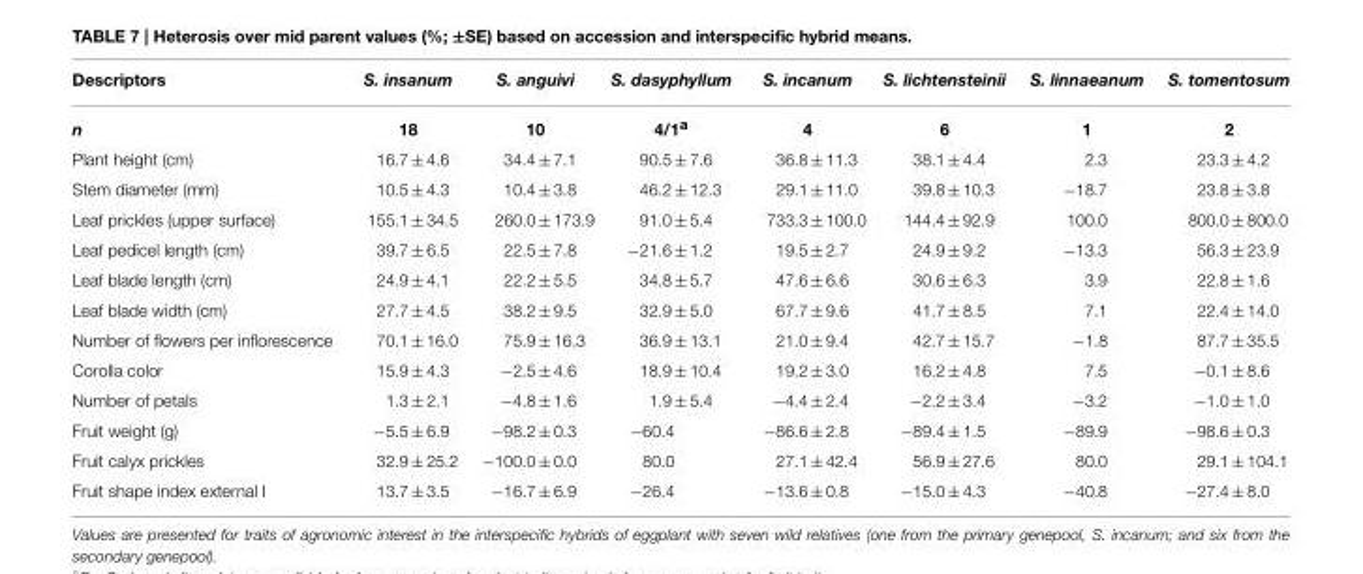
<table><thead><tr><td>Descriptors</td><td>S. insanum</td><td>S. anguivi</td><td>S. dasyphyllum</td><td>S. incanum</td><td>S. lichtensteinii</td><td>S. linnaeanum</td><td>S. tomentosum</td></tr></thead><tbody><tr><td>n</td><td>18</td><td>10</td><td>4/1<sup>a</sup></td><td>4</td><td>6</td><td>1</td><td>2</td></tr><tr><td>Plant height (cm)</td><td>16.7 ± 4.6</td><td>34.4 ± 7.1</td><td>90.5 ± 7.6</td><td>36.8 ± 11.3</td><td>38.1 ± 4.4</td><td>2.3</td><td>23.3 ± 4.2</td></tr><tr><td>Stem diameter (mm)</td><td>10.5 ± 4.3</td><td>10.4 ± 3.8</td><td>46.2 ± 12.3</td><td>29.1 ± 11.0</td><td>39.8 ± 10.3</td><td>−18.7</td><td>23.8 ± 3.8</td></tr><tr><td>Leaf prickles (upper surface)</td><td>155.1 ± 34.5</td><td>260.0 ± 173.9</td><td>91.0 ± 5.4</td><td>733.3 ± 100.0</td><td>144.4 ± 92.9</td><td>100.0</td><td>800.0 ± 800.0</td></tr><tr><td>Leaf pedicel length (cm)</td><td>39.7 ± 6.5</td><td>22.5 ± 7.8</td><td>−21.6 ± 1.2</td><td>19.5 ± 2.7</td><td>24.9 ± 9.2</td><td>−13.3</td><td>56.3 ± 23.9</td></tr><tr><td>Leaf blade length (cm)</td><td>24.9 ± 4.1</td><td>22.2 ± 5.5</td><td>34.8 ± 5.7</td><td>47.6 ± 6.6</td><td>30.6 ± 6.3</td><td>3.9</td><td>22.8 ± 1.6</td></tr><tr><td>Leaf blade width (cm)</td><td>27.7 ± 4.5</td><td>38.2 ± 9.5</td><td>32.9 ± 5.0</td><td>67.7 ± 9.6</td><td>41.7 ± 8.5</td><td>7.1</td><td>22.4 ± 14.0</td></tr><tr><td>Number of flowers per inflorescence</td><td>70.1 ± 16.0</td><td>75.9 ± 16.3</td><td>36.9 ± 13.1</td><td>21.0 ± 9.4</td><td>42.7 ± 15.7</td><td>−1.8</td><td>87.7 ± 35.5</td></tr><tr><td>Corolla color</td><td>15.9 ± 4.3</td><td>−2.5 ± 4.6</td><td>18.9 ± 10.4</td><td>19.2 ± 3.0</td><td>16.2 ± 4.8</td><td>7.5</td><td>−0.1 ± 8.6</td></tr><tr><td>Number of petals</td><td>1.3 ± 2.1</td><td>−4.8 ± 1.6</td><td>1.9 ± 5.4</td><td>−4.4 ± 2.4</td><td>−2.2 ± 3.4</td><td>−3.2</td><td>−1.0 ± 1.0</td></tr><tr><td>Fruit weight (g)</td><td>−5.5 ± 6.9</td><td>−98.2 ± 0.3</td><td>−60.4</td><td>−86.6 ± 2.8</td><td>−89.4 ± 1.5</td><td>−89.9</td><td>−98.6 ± 0.3</td></tr><tr><td>Fruit calyx prickles</td><td>32.9 ± 25.2</td><td>−100.0 ± 0.0</td><td>80.0</td><td>27.1 ± 42.4</td><td>56.9 ± 27.6</td><td>80.0</td><td>29.1 ± 104.1</td></tr><tr><td>Fruit shape index external I</td><td>13.7 ± 3.5</td><td>−16.7 ± 6.9</td><td>−26.4</td><td>−13.6 ± 0.8</td><td>−15.0 ± 4.3</td><td>−40.8</td><td>−27.4 ± 8.0</td></tr></tbody></table>